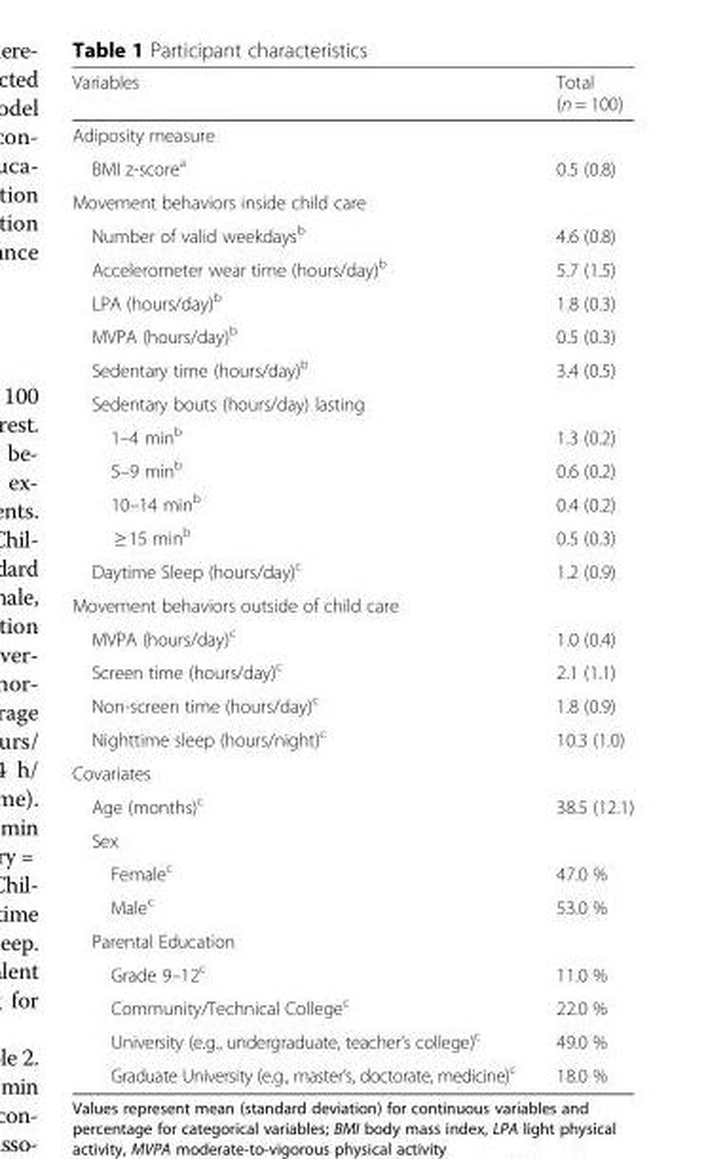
<table><thead><tr><td>Variables</td><td>Total (n = 100)</td></tr></thead><tbody><tr><td colspan="2">Adiposity measure</td></tr><tr><td>BMI z-score<sup>a</sup></td><td>0.5 (0.8)</td></tr><tr><td colspan="2">Movement behaviors inside child care</td></tr><tr><td>Number of valid weekdays<sup>b</sup></td><td>4.6 (0.8)</td></tr><tr><td>Accelerometer wear time (hours/day)<sup>b</sup></td><td>5.7 (1.5)</td></tr><tr><td>LPA (hours/day)<sup>b</sup></td><td>1.8 (0.3)</td></tr><tr><td>MVPA (hours/day)<sup>b</sup></td><td>0.5 (0.3)</td></tr><tr><td>Sedentary time (hours/day)<sup>b</sup></td><td>3.4 (0.5)</td></tr><tr><td colspan="2">Sedentary bouts (hours/day) lasting</td></tr><tr><td>1–4 min<sup>b</sup></td><td>1.3 (0.2)</td></tr><tr><td>5–9 min<sup>b</sup></td><td>0.6 (0.2)</td></tr><tr><td>10–14 min<sup>b</sup></td><td>0.4 (0.2)</td></tr><tr><td>≥ 15 min<sup>b</sup></td><td>0.5 (0.3)</td></tr><tr><td>Daytime Sleep (hours/day)<sup>c</sup></td><td>1.2 (0.9)</td></tr><tr><td colspan="2">Movement behaviors outside of child care</td></tr><tr><td>MVPA (hours/day)<sup>c</sup></td><td>1.0 (0.4)</td></tr><tr><td>Screen time (hours/day)<sup>c</sup></td><td>2.1 (1.1)</td></tr><tr><td>Non-screen time (hours/day)<sup>c</sup></td><td>1.8 (0.9)</td></tr><tr><td>Nighttime sleep (hours/night)<sup>c</sup></td><td>10.3 (1.0)</td></tr><tr><td colspan="2">Covariates</td></tr><tr><td>Age (months)<sup>c</sup></td><td>38.5 (12.1)</td></tr><tr><td colspan="2">Sex</td></tr><tr><td>Female<sup>c</sup></td><td>47.0 %</td></tr><tr><td>Male<sup>c</sup></td><td>53.0 %</td></tr><tr><td colspan="2">Parental Education</td></tr><tr><td>Grade 9–12<sup>c</sup></td><td>11.0 %</td></tr><tr><td>Community/Technical College<sup>c</sup></td><td>22.0 %</td></tr><tr><td>University (e.g., undergraduate, teacher’s college)<sup>c</sup></td><td>49.0 %</td></tr><tr><td>Graduate University (e.g., master’s, doctorate, medicine)<sup>c</sup></td><td>18.0 %</td></tr></tbody></table>